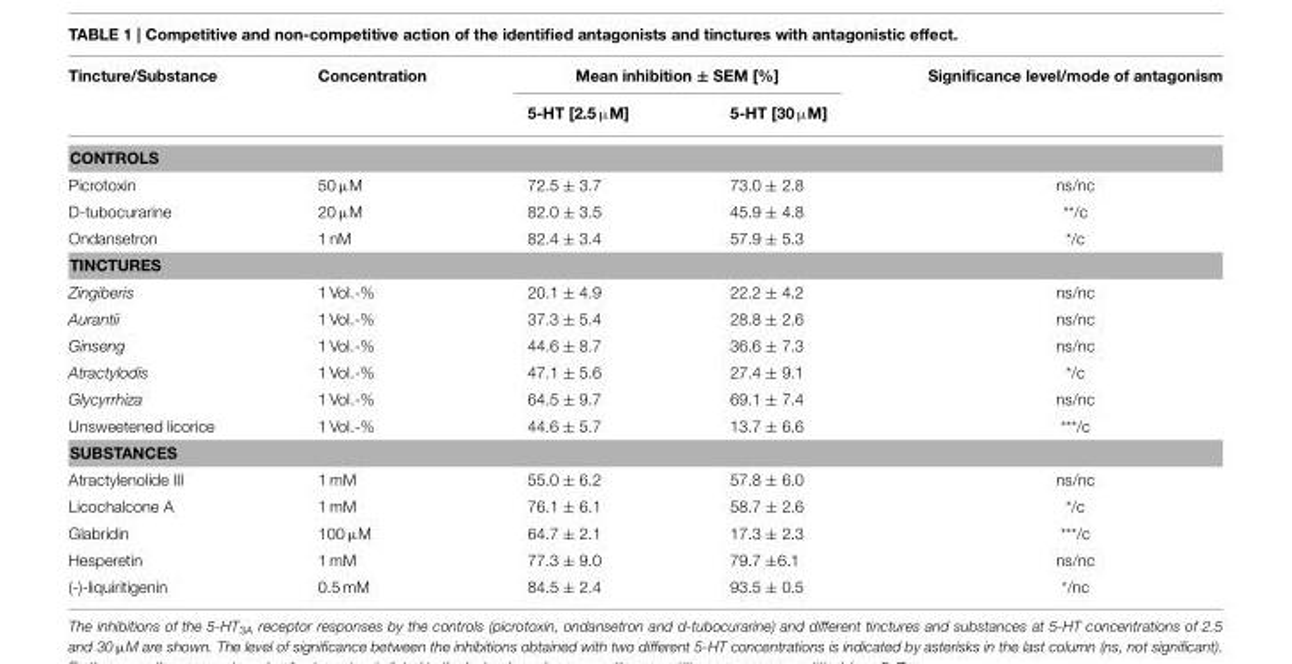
<table><thead><tr><td rowspan="2">Tincture/Substance</td><td rowspan="2">Concentration</td><td colspan="2">Mean inhibition ± SEM [%]</td><td rowspan="2">Significance level/mode of antagonism</td></tr><tr><td>5-HT [2.5 µM]</td><td>5-HT [30 µM]</td></tr></thead><tbody><tr><td colspan="5">CONTROLS</td></tr><tr><td>Picrotoxin</td><td>50 µM</td><td>72.5 ± 3.7</td><td>73.0 ± 2.8</td><td>ns/nc</td></tr><tr><td>D-tubocurarine</td><td>20 µM</td><td>82.0 ± 3.5</td><td>45.9 ± 4.8</td><td>**/c</td></tr><tr><td>Ondansetron</td><td>1 nM</td><td>82.4 ± 3.4</td><td>57.9 ± 5.3</td><td>*/c</td></tr><tr><td colspan="5">TINCTURES</td></tr><tr><td>Zingiberis</td><td>1 Vol.-%</td><td>20.1 ± 4.9</td><td>22.2 ± 4.2</td><td>ns/nc</td></tr><tr><td>Aurantii</td><td>1 Vol.-%</td><td>37.3 ± 5.4</td><td>28.8 ± 2.6</td><td>ns/nc</td></tr><tr><td>Ginseng</td><td>1 Vol.-%</td><td>44.6 ± 8.7</td><td>36.6 ± 7.3</td><td>ns/nc</td></tr><tr><td>Atractylodis</td><td>1 Vol.-%</td><td>47.1 ± 5.6</td><td>27.4 ± 9.1</td><td>*/c</td></tr><tr><td>Glycyrrhiza</td><td>1 Vol.-%</td><td>64.5 ± 9.7</td><td>69.1 ± 7.4</td><td>ns/nc</td></tr><tr><td>Unsweetened licorice</td><td>1 Vol.-%</td><td>44.6 ± 5.7</td><td>13.7 ± 6.6</td><td>***/c</td></tr><tr><td colspan="5">SUBSTANCES</td></tr><tr><td>Atractylenolide III</td><td>1 mM</td><td>55.0 ± 6.2</td><td>57.8 ± 6.0</td><td>ns/nc</td></tr><tr><td>Licochalcone A</td><td>1 mM</td><td>76.1 ± 6.1</td><td>58.7 ± 2.6</td><td>*/c</td></tr><tr><td>Glabridin</td><td>100 µM</td><td>64.7 ± 2.1</td><td>17.3 ± 2.3</td><td>***/c</td></tr><tr><td>Hesperetin</td><td>1 mM</td><td>77.3 ± 9.0</td><td>79.7 ±6.1</td><td>ns/nc</td></tr><tr><td>(-)-liquiritigenin</td><td>0.5 mM</td><td>84.5 ± 2.4</td><td>93.5 ± 0.5</td><td>*/nc</td></tr></tbody></table>